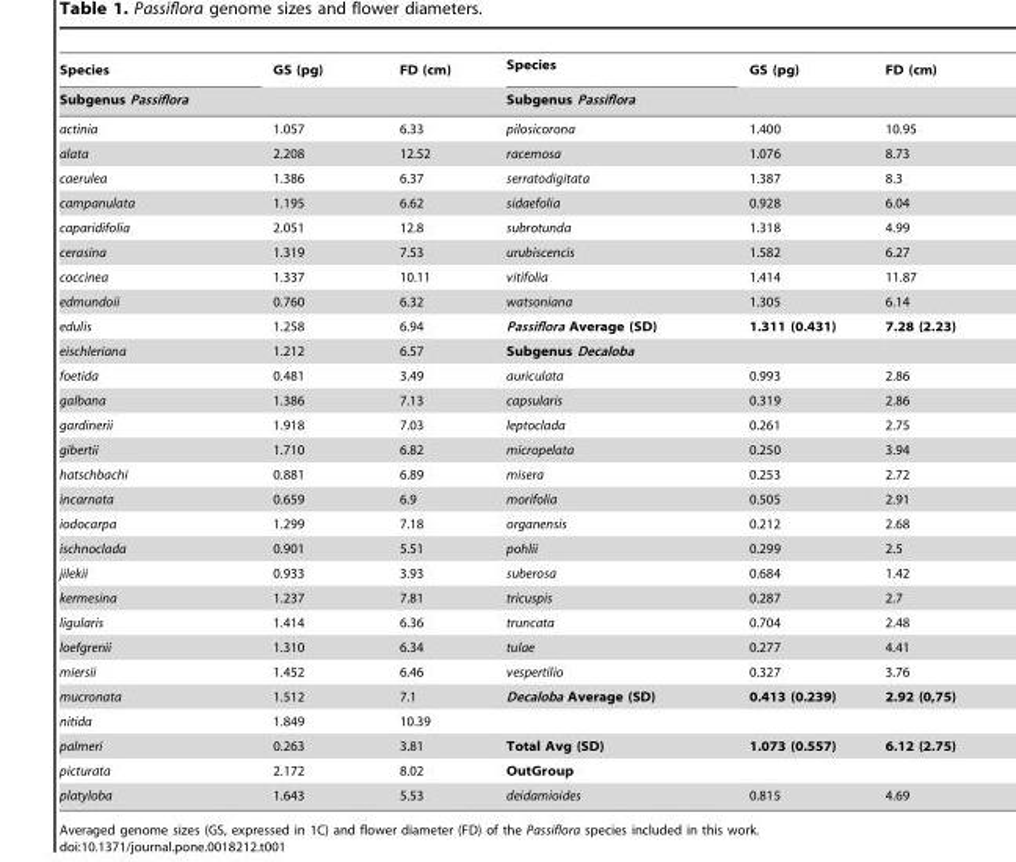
<table><thead><tr><td>Species</td><td>GS (pg)</td><td>FD (cm)</td><td>Species</td><td>GS (pg)</td><td>FD (cm)</td></tr><tr><td colspan="3">Subgenus Passiflora</td><td colspan="3">Subgenus Passiflora</td></tr></thead><tbody><tr><td>actinia</td><td>1.057</td><td>6.33</td><td>pilosicorona</td><td>1.400</td><td>10.95</td></tr><tr><td>alata</td><td>2.208</td><td>12.52</td><td>racemosa</td><td>1.076</td><td>8.73</td></tr><tr><td>caerulea</td><td>1.386</td><td>6.37</td><td>serratodigitata</td><td>1.387</td><td>8.3</td></tr><tr><td>campanulata</td><td>1.195</td><td>6.62</td><td>sidaefolia</td><td>0.928</td><td>6.04</td></tr><tr><td>caparidifolia</td><td>2.051</td><td>12.8</td><td>subrotunda</td><td>1.318</td><td>4.99</td></tr><tr><td>cerasina</td><td>1.319</td><td>7.53</td><td>urubiscencis</td><td>1.582</td><td>6.27</td></tr><tr><td>coccinea</td><td>1.337</td><td>10.11</td><td>vitifolia</td><td>1.414</td><td>11.87</td></tr><tr><td>edmundoii</td><td>0.760</td><td>6.32</td><td>watsoniana</td><td>1.305</td><td>6.14</td></tr><tr><td>edulis</td><td>1.258</td><td>6.94</td><td>Passiflora Average (SD)</td><td>1.311 (0.431)</td><td>7.28 (2.23)</td></tr><tr><td>eischleriana</td><td>1.212</td><td>6.57</td><td>Subgenus Decaloba</td><td></td><td></td></tr><tr><td>foetida</td><td>0.481</td><td>3.49</td><td>auriculata</td><td>0.993</td><td>2.86</td></tr><tr><td>galbana</td><td>1.386</td><td>7.13</td><td>capsularis</td><td>0.319</td><td>2.86</td></tr><tr><td>gardinerii</td><td>1.918</td><td>7.03</td><td>leptoclada</td><td>0.261</td><td>2.75</td></tr><tr><td>gibertii</td><td>1.710</td><td>6.82</td><td>micropelata</td><td>0.250</td><td>3.94</td></tr><tr><td>hatschbachi</td><td>0.881</td><td>6.89</td><td>misera</td><td>0.253</td><td>2.72</td></tr><tr><td>incarnata</td><td>0.659</td><td>6.9</td><td>morifolia</td><td>0.505</td><td>2.91</td></tr><tr><td>iodocarpa</td><td>1.299</td><td>7.18</td><td>organensis</td><td>0.212</td><td>2.68</td></tr><tr><td>ischnoclada</td><td>0.901</td><td>5.51</td><td>pohlii</td><td>0.299</td><td>2.5</td></tr><tr><td>jilekii</td><td>0.933</td><td>3.93</td><td>suberosa</td><td>0.684</td><td>1.42</td></tr><tr><td>kermesina</td><td>1.237</td><td>7.81</td><td>tricuspis</td><td>0.287</td><td>2.7</td></tr><tr><td>ligularis</td><td>1.414</td><td>6.36</td><td>truncata</td><td>0.704</td><td>2.48</td></tr><tr><td>loefgrenii</td><td>1.310</td><td>6.34</td><td>tulae</td><td>0.277</td><td>4.41</td></tr><tr><td>miersii</td><td>1.452</td><td>6.46</td><td>vespertilio</td><td>0.327</td><td>3.76</td></tr><tr><td>mucronata</td><td>1.512</td><td>7.1</td><td>Decaloba Average (SD)</td><td>0.413 (0.239)</td><td>2.92 (0,75)</td></tr><tr><td>nitida</td><td>1.849</td><td>10.39</td><td></td><td></td><td></td></tr><tr><td>palmeri</td><td>0.263</td><td>3.81</td><td>Total Avg (SD)</td><td>1.073 (0.557)</td><td>6.12 (2.75)</td></tr><tr><td>picturata</td><td>2.172</td><td>8.02</td><td>OutGroup</td><td></td><td></td></tr><tr><td>platyloba</td><td>1.643</td><td>5.53</td><td>deidamioides</td><td>0.815</td><td>4.69</td></tr></tbody></table>